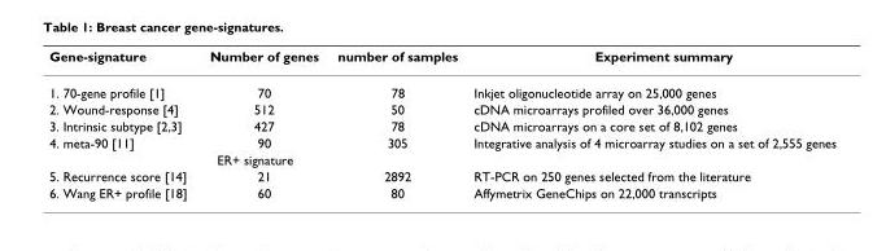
<table><thead><tr><td>Gene-signature</td><td>Number of genes</td><td>number of samples</td><td>Experiment summary</td></tr></thead><tbody><tr><td>1. 70-gene profile [1]</td><td>70</td><td>78</td><td>Inkjet oligonucleotide array on 25,000 genes</td></tr><tr><td>2. Wound-response [4]</td><td>512</td><td>50</td><td>cDNA microarrays profiled over 36,000 genes</td></tr><tr><td>3. Intrinsic subtype [2,3]</td><td>427</td><td>78</td><td>cDNA microarrays on a core set of 8,102 genes</td></tr><tr><td>4. meta-90 [11]</td><td>90</td><td>305</td><td>Integrative analysis of 4 microarray studies on a set of 2,555 genes</td></tr><tr><td colspan="4">ER+ signature</td></tr><tr><td>5. Recurrence score [14]</td><td>21</td><td>2892</td><td>RT-PCR on 250 genes selected from the literature</td></tr><tr><td>6. Wang ER+ profile [18]</td><td>60</td><td>80</td><td>Affymetrix GeneChips on 22,000 transcripts</td></tr></tbody></table>